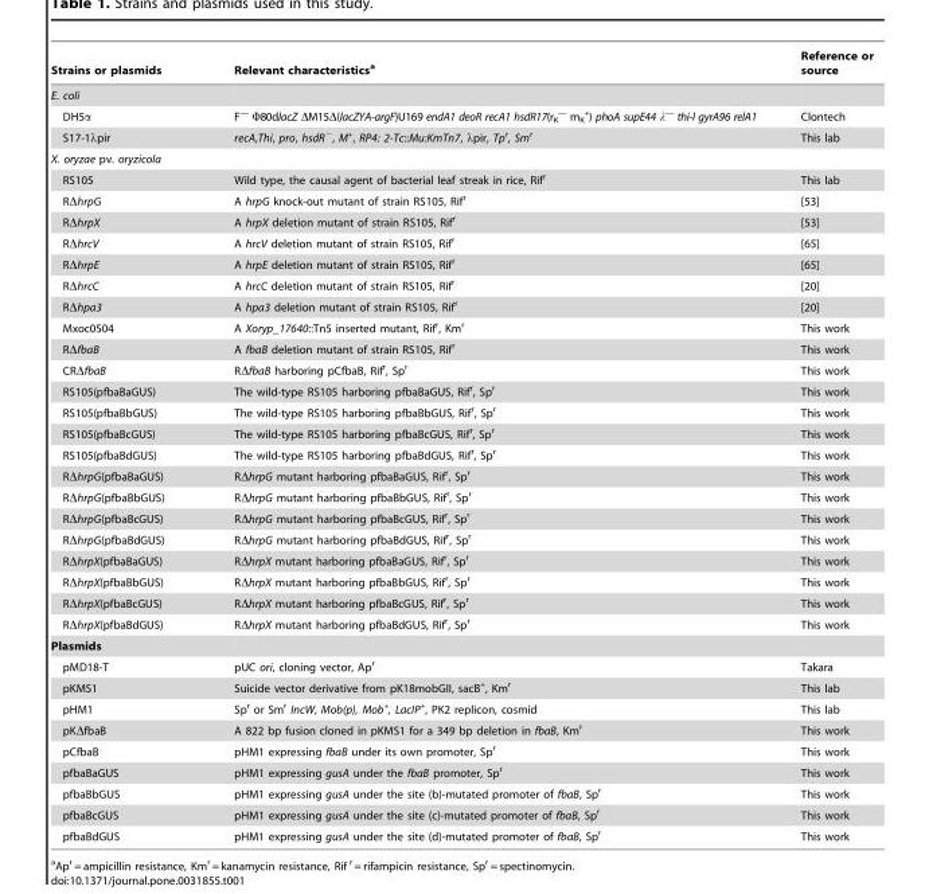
<table><thead><tr><td>Strains or plasmids</td><td>Relevant characteristics<sup>a</sup></td><td>Reference or source</td></tr></thead><tbody><tr><td colspan="3">E. coli</td></tr><tr><td>DH5α</td><td>F<sup>—</sup> Φ80dlacZ ΔM15Δ(lacZYA-argF)U169 endA1 deoR recA1 hsdR17(r<sub>K</sub> <sup>—</sup> m<sub>K</sub> <sup>+</sup>) phoA supE44 λ<sup>—</sup> thi-l gyrA96 relA1</td><td>Clontech</td></tr><tr><td>S17-1λpir</td><td>recA,Thi, pro, hsdR<sup>−</sup>, M<sup>+</sup>, RP4: 2-Tc::Mu:KmTn7, λpir, Tp<sup>r</sup>, Sm<sup>r</sup></td><td>This lab</td></tr><tr><td colspan="3">X. oryzae pv. oryzicola</td></tr><tr><td>RS105</td><td>Wild type, the causal agent of bacterial leaf streak in rice, Rif<sup>r</sup></td><td>This lab</td></tr><tr><td>RΔhrpG</td><td>A hrpG knock-out mutant of strain RS105, Rif<sup>r</sup></td><td>[53]</td></tr><tr><td>RΔhrpX</td><td>A hrpX deletion mutant of strain RS105, Rif<sup>r</sup></td><td>[53]</td></tr><tr><td>RΔhrcV</td><td>A hrcV deletion mutant of strain RS105, Rif<sup>r</sup></td><td>[65]</td></tr><tr><td>RΔhrpE</td><td>A hrpE deletion mutant of strain RS105, Rif<sup>r</sup></td><td>[65]</td></tr><tr><td>RΔhrcC</td><td>A hrcC deletion mutant of strain RS105, Rif<sup>r</sup></td><td>[20]</td></tr><tr><td>RΔhpa3</td><td>A hpa3 deletion mutant of strain RS105, Rif<sup>r</sup></td><td>[20]</td></tr><tr><td>Mxoc0504</td><td>A Xoryp_17640::Tn5 inserted mutant, Rif<sup>r</sup>, Km<sup>r</sup></td><td>This work</td></tr><tr><td>RΔfbaB</td><td>A fbaB deletion mutant of strain RS105, Rif<sup>r</sup></td><td>This work</td></tr><tr><td>CRΔfbaB</td><td>RΔfbaB harboring pCfbaB, Rif<sup>r</sup>, Sp<sup>r</sup></td><td>This work</td></tr><tr><td>RS105(pfbaBaGUS)</td><td>The wild-type RS105 harboring pfbaBaGUS, Rif<sup>r</sup>, Sp<sup>r</sup></td><td>This work</td></tr><tr><td>RS105(pfbaBbGUS)</td><td>The wild-type RS105 harboring pfbaBbGUS, Rif<sup>r</sup>, Sp<sup>r</sup></td><td>This work</td></tr><tr><td>RS105(pfbaBcGUS)</td><td>The wild-type RS105 harboring pfbaBcGUS, Rif<sup>r</sup>, Sp<sup>r</sup></td><td>This work</td></tr><tr><td>RS105(pfbaBdGUS)</td><td>The wild-type RS105 harboring pfbaBdGUS, Rif<sup>r</sup>, Sp<sup>r</sup></td><td>This work</td></tr><tr><td>RΔhrpG(pfbaBaGUS)</td><td>RΔhrpG mutant harboring pfbaBaGUS, Rif<sup>r</sup>, Sp<sup>r</sup></td><td>This work</td></tr><tr><td>RΔhrpG(pfbaBbGUS)</td><td>RΔhrpG mutant harboring pfbaBbGUS, Rif<sup>r</sup>, Sp<sup>r</sup></td><td>This work</td></tr><tr><td>RΔhrpG(pfbaBcGUS)</td><td>RΔhrpG mutant harboring pfbaBcGUS, Rif<sup>r</sup>, Sp<sup>r</sup></td><td>This work</td></tr><tr><td>RΔhrpG(pfbaBdGUS)</td><td>RΔhrpG mutant harboring pfbaBdGUS, Rif<sup>r</sup>, Sp<sup>r</sup></td><td>This work</td></tr><tr><td>RΔhrpX(pfbaBaGUS)</td><td>RΔhrpX mutant harboring pfbaBaGUS, Rif<sup>r</sup>, Sp<sup>r</sup></td><td>This work</td></tr><tr><td>RΔhrpX(pfbaBbGUS)</td><td>RΔhrpX mutant harboring pfbaBbGUS, Rif<sup>r</sup>, Sp<sup>r</sup></td><td>This work</td></tr><tr><td>RΔhrpX(pfbaBcGUS)</td><td>RΔhrpX mutant harboring pfbaBcGUS, Rif<sup>r</sup>, Sp<sup>r</sup></td><td>This work</td></tr><tr><td>RΔhrpX(pfbaBdGUS)</td><td>RΔhrpX mutant harboring pfbaBdGUS, Rif<sup>r</sup>, Sp<sup>r</sup></td><td>This work</td></tr><tr><td colspan="3">Plasmids</td></tr><tr><td>pMD18-T</td><td>pUC ori, cloning vector, Ap<sup>r</sup></td><td>Takara</td></tr><tr><td>pKMS1</td><td>Suicide vector derivative from pK18mobGII, sacB<sup>+</sup>, Km<sup>r</sup></td><td>This lab</td></tr><tr><td>pHM1</td><td>Sp<sup>r</sup> or Sm<sup>r</sup> IncW, Mob(p), Mob<sup>+</sup>, LacIP<sup>+</sup>, PK2 replicon, cosmid</td><td>This lab</td></tr><tr><td>pKΔfbaB</td><td>A 822 bp fusion cloned in pKMS1 for a 349 bp deletion in fbaB, Km<sup>r</sup></td><td>This work</td></tr><tr><td>pCfbaB</td><td>pHM1 expressing fbaB under its own promoter, Sp<sup>r</sup></td><td>This work</td></tr><tr><td>pfbaBaGUS</td><td>pHM1 expressing gusA under the fbaB promoter, Sp<sup>r</sup></td><td>This work</td></tr><tr><td>pfbaBbGUS</td><td>pHM1 expressing gusA under the site (b)-mutated promoter of fbaB, Sp<sup>r</sup></td><td>This work</td></tr><tr><td>pfbaBcGUS</td><td>pHM1 expressing gusA under the site (c)-mutated promoter of fbaB, Sp<sup>r</sup></td><td>This work</td></tr><tr><td>pfbaBdGUS</td><td>pHM1 expressing gusA under the site (d)-mutated promoter of fbaB, Sp<sup>r</sup></td><td>This work</td></tr></tbody></table>